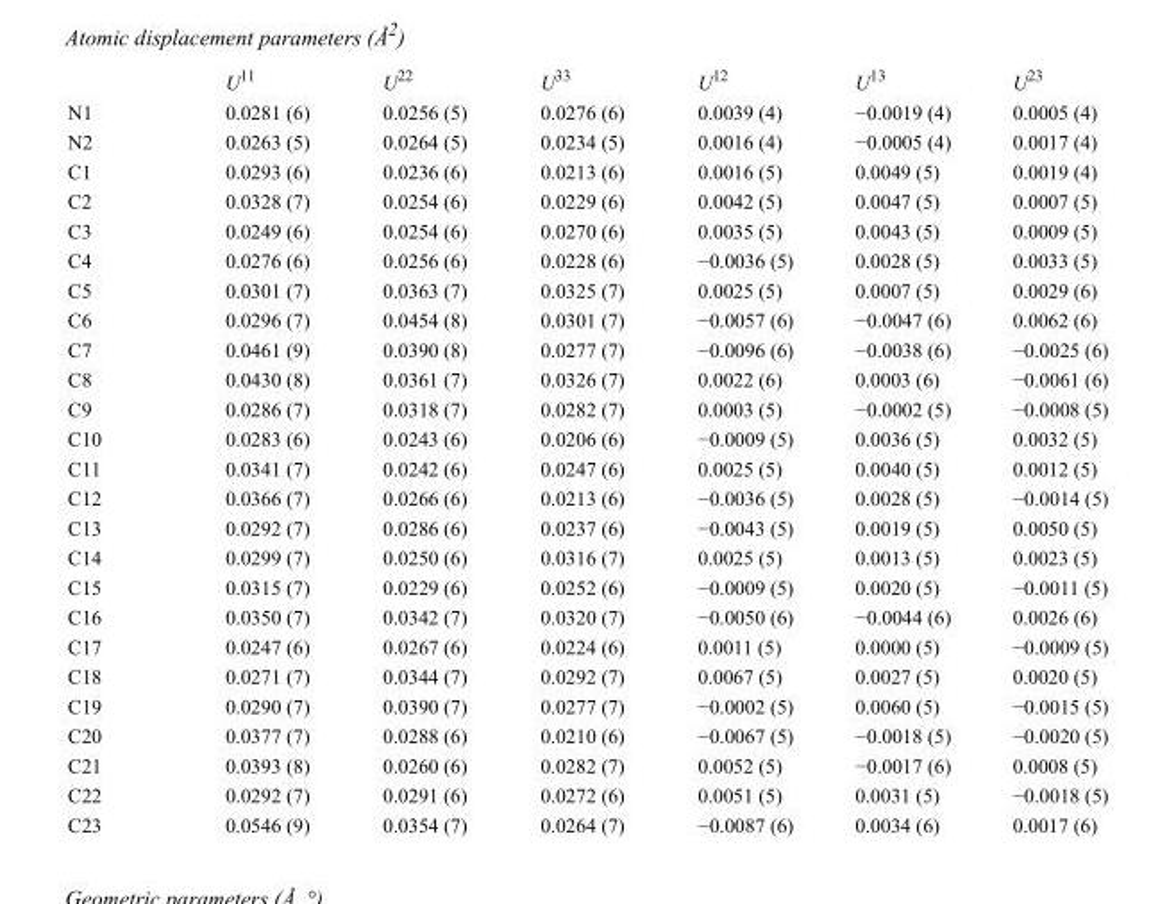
<table><thead><tr><td></td><td>U<sup>11</sup></td><td>U<sup>22</sup></td><td>U<sup>33</sup></td><td>U<sup>12</sup></td><td>U<sup>13</sup></td><td>U<sup>23</sup></td></tr></thead><tbody><tr><td>N1</td><td>0.0281 (6)</td><td>0.0256 (5)</td><td>0.0276 (6)</td><td>0.0039 (4)</td><td>−0.0019 (4)</td><td>0.0005 (4)</td></tr><tr><td>N2</td><td>0.0263 (5)</td><td>0.0264 (5)</td><td>0.0234 (5)</td><td>0.0016 (4)</td><td>−0.0005 (4)</td><td>0.0017 (4)</td></tr><tr><td>C1</td><td>0.0293 (6)</td><td>0.0236 (6)</td><td>0.0213 (6)</td><td>0.0016 (5)</td><td>0.0049 (5)</td><td>0.0019 (4)</td></tr><tr><td>C2</td><td>0.0328 (7)</td><td>0.0254 (6)</td><td>0.0229 (6)</td><td>0.0042 (5)</td><td>0.0047 (5)</td><td>0.0007 (5)</td></tr><tr><td>C3</td><td>0.0249 (6)</td><td>0.0254 (6)</td><td>0.0270 (6)</td><td>0.0035 (5)</td><td>0.0043 (5)</td><td>0.0009 (5)</td></tr><tr><td>C4</td><td>0.0276 (6)</td><td>0.0256 (6)</td><td>0.0228 (6)</td><td>−0.0036 (5)</td><td>0.0028 (5)</td><td>0.0033 (5)</td></tr><tr><td>C5</td><td>0.0301 (7)</td><td>0.0363 (7)</td><td>0.0325 (7)</td><td>0.0025 (5)</td><td>0.0007 (5)</td><td>0.0029 (6)</td></tr><tr><td>C6</td><td>0.0296 (7)</td><td>0.0454 (8)</td><td>0.0301 (7)</td><td>−0.0057 (6)</td><td>−0.0047 (6)</td><td>0.0062 (6)</td></tr><tr><td>C7</td><td>0.0461 (9)</td><td>0.0390 (8)</td><td>0.0277 (7)</td><td>−0.0096 (6)</td><td>−0.0038 (6)</td><td>−0.0025 (6)</td></tr><tr><td>C8</td><td>0.0430 (8)</td><td>0.0361 (7)</td><td>0.0326 (7)</td><td>0.0022 (6)</td><td>0.0003 (6)</td><td>−0.0061 (6)</td></tr><tr><td>C9</td><td>0.0286 (7)</td><td>0.0318 (7)</td><td>0.0282 (7)</td><td>0.0003 (5)</td><td>−0.0002 (5)</td><td>−0.0008 (5)</td></tr><tr><td>C10</td><td>0.0283 (6)</td><td>0.0243 (6)</td><td>0.0206 (6)</td><td>−0.0009 (5)</td><td>0.0036 (5)</td><td>0.0032 (5)</td></tr><tr><td>C11</td><td>0.0341 (7)</td><td>0.0242 (6)</td><td>0.0247 (6)</td><td>0.0025 (5)</td><td>0.0040 (5)</td><td>0.0012 (5)</td></tr><tr><td>C12</td><td>0.0366 (7)</td><td>0.0266 (6)</td><td>0.0213 (6)</td><td>−0.0036 (5)</td><td>0.0028 (5)</td><td>−0.0014 (5)</td></tr><tr><td>C13</td><td>0.0292 (7)</td><td>0.0286 (6)</td><td>0.0237 (6)</td><td>−0.0043 (5)</td><td>0.0019 (5)</td><td>0.0050 (5)</td></tr><tr><td>C14</td><td>0.0299 (7)</td><td>0.0250 (6)</td><td>0.0316 (7)</td><td>0.0025 (5)</td><td>0.0013 (5)</td><td>0.0023 (5)</td></tr><tr><td>C15</td><td>0.0315 (7)</td><td>0.0229 (6)</td><td>0.0252 (6)</td><td>−0.0009 (5)</td><td>0.0020 (5)</td><td>−0.0011 (5)</td></tr><tr><td>C16</td><td>0.0350 (7)</td><td>0.0342 (7)</td><td>0.0320 (7)</td><td>−0.0050 (6)</td><td>−0.0044 (6)</td><td>0.0026 (6)</td></tr><tr><td>C17</td><td>0.0247 (6)</td><td>0.0267 (6)</td><td>0.0224 (6)</td><td>0.0011 (5)</td><td>0.0000 (5)</td><td>−0.0009 (5)</td></tr><tr><td>C18</td><td>0.0271 (7)</td><td>0.0344 (7)</td><td>0.0292 (7)</td><td>0.0067 (5)</td><td>0.0027 (5)</td><td>0.0020 (5)</td></tr><tr><td>C19</td><td>0.0290 (7)</td><td>0.0390 (7)</td><td>0.0277 (7)</td><td>−0.0002 (5)</td><td>0.0060 (5)</td><td>−0.0015 (5)</td></tr><tr><td>C20</td><td>0.0377 (7)</td><td>0.0288 (6)</td><td>0.0210 (6)</td><td>−0.0067 (5)</td><td>−0.0018 (5)</td><td>−0.0020 (5)</td></tr><tr><td>C21</td><td>0.0393 (8)</td><td>0.0260 (6)</td><td>0.0282 (7)</td><td>0.0052 (5)</td><td>−0.0017 (6)</td><td>0.0008 (5)</td></tr><tr><td>C22</td><td>0.0292 (7)</td><td>0.0291 (6)</td><td>0.0272 (6)</td><td>0.0051 (5)</td><td>0.0031 (5)</td><td>−0.0018 (5)</td></tr><tr><td>C23</td><td>0.0546 (9)</td><td>0.0354 (7)</td><td>0.0264 (7)</td><td>−0.0087 (6)</td><td>0.0034 (6)</td><td>0.0017 (6)</td></tr></tbody></table>